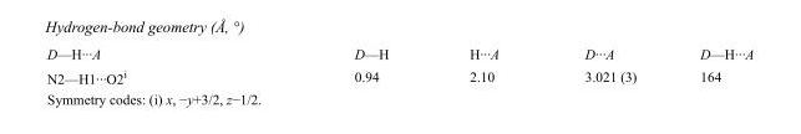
<table><tbody><tr><td>D—H···A</td><td>D—H</td><td>H···A</td><td>D···A</td><td>D—H···A</td></tr><tr><td>N2—H1···O2<sup>i</sup></td><td>0.94</td><td>2.10</td><td>3.021 (3)</td><td>164</td></tr></tbody></table>